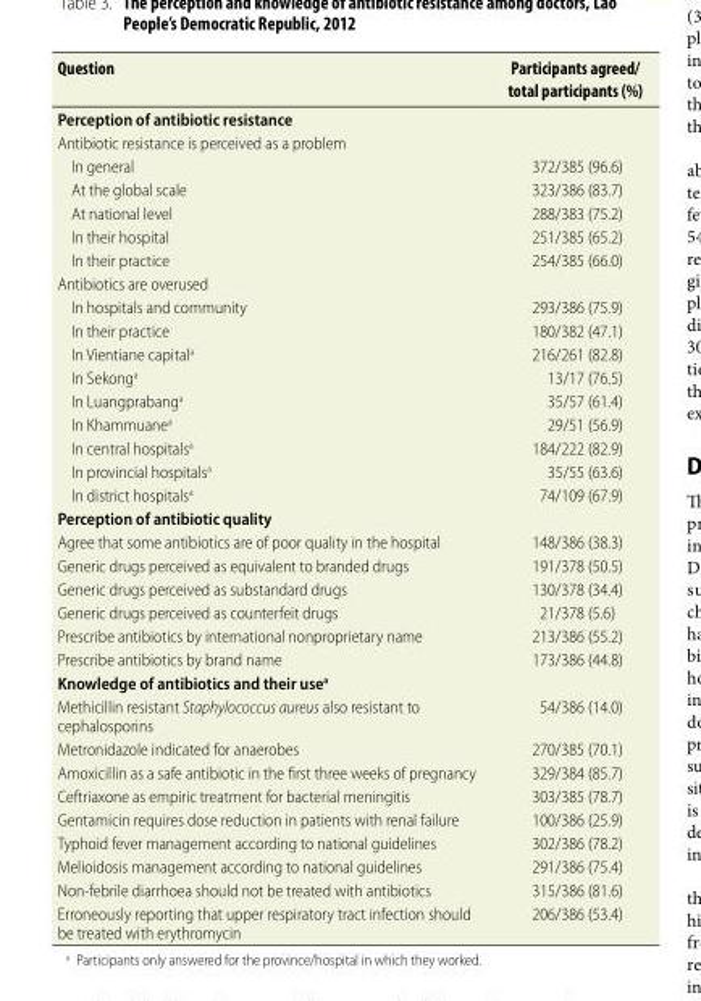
<table><thead><tr><td>Question</td><td>Participants agreed/ total participants (%)</td></tr></thead><tbody><tr><td colspan="2">Perception of antibiotic resistance</td></tr><tr><td colspan="2">Antibiotic resistance is perceived as a problem</td></tr><tr><td>In general</td><td>372/385 (96.6)</td></tr><tr><td>At the global scale</td><td>323/386 (83.7)</td></tr><tr><td>At national level</td><td>288/383 (75.2)</td></tr><tr><td>In their hospital</td><td>251/385 (65.2)</td></tr><tr><td>In their practice</td><td>254/385 (66.0)</td></tr><tr><td colspan="2">Antibiotics are overused</td></tr><tr><td>In hospitals and community</td><td>293/386 (75.9)</td></tr><tr><td>In their practice</td><td>180/382 (47.1)</td></tr><tr><td>In Vientiane capital<sup>a</sup></td><td>216/261 (82.8)</td></tr><tr><td>In Sekong<sup>a</sup></td><td>13/17 (76.5)</td></tr><tr><td>In Luangprabang<sup>a</sup></td><td>35/57 (61.4)</td></tr><tr><td>In Khammuane<sup>a</sup></td><td>29/51 (56.9)</td></tr><tr><td>In central hospitals<sup>a</sup></td><td>184/222 (82.9)</td></tr><tr><td>In provincial hospitals<sup>a</sup></td><td>35/55 (63.6)</td></tr><tr><td>In district hospitals<sup>a</sup></td><td>74/109 (67.9)</td></tr><tr><td colspan="2">Perception of antibiotic quality</td></tr><tr><td>Agree that some antibiotics are of poor quality in the hospital</td><td>148/386 (38.3)</td></tr><tr><td>Generic drugs perceived as equivalent to branded drugs</td><td>191/378 (50.5)</td></tr><tr><td>Generic drugs perceived as substandard drugs</td><td>130/378 (34.4)</td></tr><tr><td>Generic drugs perceived as counterfeit drugs</td><td>21/378 (5.6)</td></tr><tr><td>Prescribe antibiotics by international nonproprietary name</td><td>213/386 (55.2)</td></tr><tr><td>Prescribe antibiotics by brand name</td><td>173/386 (44.8)</td></tr><tr><td colspan="2">Knowledge of antibiotics and their use<sup>a</sup></td></tr><tr><td>Methicillin resistant Staphylococcus aureus also resistant to cephalosporins</td><td>54/386 (14.0)</td></tr><tr><td>Metronidazole indicated for anaerobes</td><td>270/385 (70.1)</td></tr><tr><td>Amoxicillin as a safe antibiotic in the first three weeks of pregnancy</td><td>329/384 (85.7)</td></tr><tr><td>Ceftriaxone as empiric treatment for bacterial meningitis</td><td>303/385 (78.7)</td></tr><tr><td>Gentamicin requires dose reduction in patients with renal failure</td><td>100/386 (25.9)</td></tr><tr><td>Typhoid fever management according to national guidelines</td><td>302/386 (78.2)</td></tr><tr><td>Melioidosis management according to national guidelines</td><td>291/386 (75.4)</td></tr><tr><td>Non-febrile diarrhoea should not be treated with antibiotics</td><td>315/386 (81.6)</td></tr><tr><td>Erroneously reporting that upper respiratory tract infection should be treated with erythromycin</td><td>206/386 (53.4)</td></tr></tbody></table>